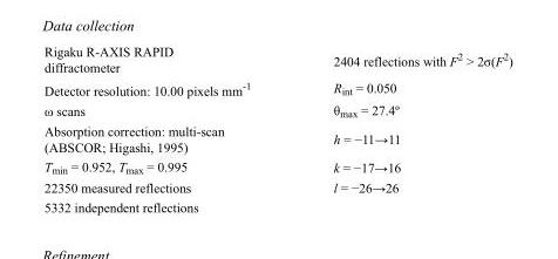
<table><tbody><tr><td>Rigaku R-AXIS RAPID diffractometer</td><td>2404 reflections with F<sup>2</sup> &gt; 2σ(F<sup>2</sup>)</td></tr><tr><td>Detector resolution: 10.00 pixels mm<sup>-1</sup></td><td>R<sub>int</sub> = 0.050</td></tr><tr><td>ω scans</td><td>θmax = 27.4º</td></tr><tr><td>Absorption correction: multi-scan (ABSCOR; Higashi, 1995)</td><td>h = −11→11</td></tr><tr><td>T<sub>min</sub> = 0.952, T<sub>max</sub> = 0.995</td><td>k = −17→16</td></tr><tr><td>22350 measured reflections</td><td>l = −26→26</td></tr><tr><td>5332 independent reflections</td><td></td></tr></tbody></table>